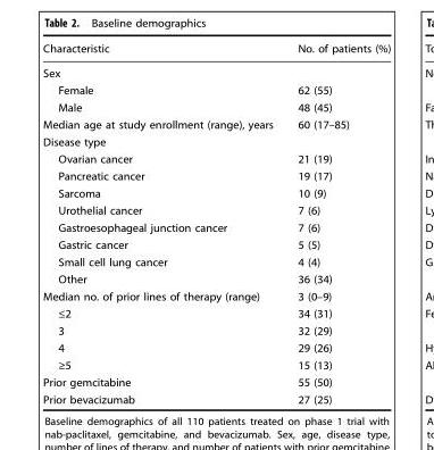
<table><thead><tr><td>Characteristic</td><td>No. of patients (%)</td></tr></thead><tbody><tr><td colspan="2">Sex</td></tr><tr><td>Female</td><td>62 (55)</td></tr><tr><td>Male</td><td>48 (45)</td></tr><tr><td>Median age at study enrollment (range), years</td><td>60 (17–85)</td></tr><tr><td colspan="2">Disease type</td></tr><tr><td>Ovarian cancer</td><td>21 (19)</td></tr><tr><td>Pancreatic cancer</td><td>19 (17)</td></tr><tr><td>Sarcoma</td><td>10 (9)</td></tr><tr><td>Urothelial cancer</td><td>7 (6)</td></tr><tr><td>Gastroesophageal junction cancer</td><td>7 (6)</td></tr><tr><td>Gastric cancer</td><td>5 (5)</td></tr><tr><td>Small cell lung cancer</td><td>4 (4)</td></tr><tr><td>Other</td><td>36 (34)</td></tr><tr><td>Median no. of prior lines of therapy (range)</td><td>3 (0–9)</td></tr><tr><td>≤2</td><td>34 (31)</td></tr><tr><td>3</td><td>32 (29)</td></tr><tr><td>4</td><td>29 (26)</td></tr><tr><td>≥5</td><td>15 (13)</td></tr><tr><td>Prior gemcitabine</td><td>55 (50)</td></tr><tr><td>Prior bevacizumab</td><td>27 (25)</td></tr></tbody></table>